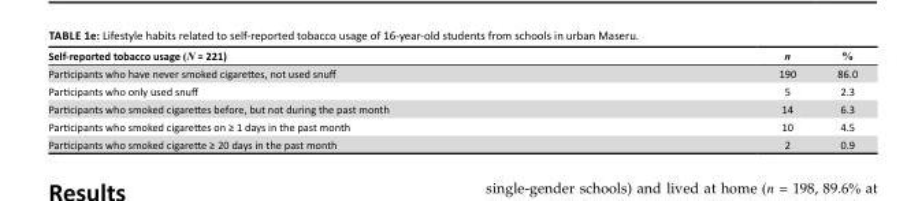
<table><thead><tr><td>Self-reported tobacco usage (N = 221)</td><td>n</td><td>%</td></tr></thead><tbody><tr><td>Participants who have never smoked cigarettes, not used snuff</td><td>190</td><td>86.0</td></tr><tr><td>Participants who only used snuff</td><td>5</td><td>2.3</td></tr><tr><td>Participants who smoked cigarettes before, but not during the past month</td><td>14</td><td>6.3</td></tr><tr><td>Participants who smoked cigarettes on ≥ 1 days in the past month</td><td>10</td><td>4.5</td></tr><tr><td>Participants who smoked cigarette ≥ 20 days in the past month</td><td>2</td><td>0.9</td></tr></tbody></table>